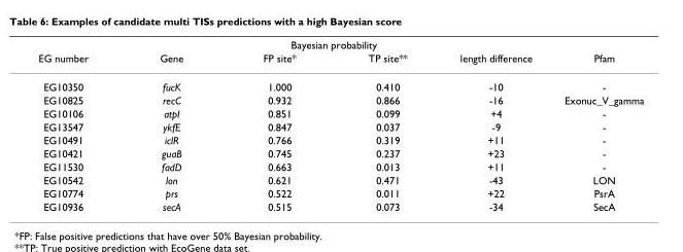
<table><thead><tr><td rowspan="2">EG number</td><td rowspan="2">Gene</td><td colspan="2">Bayesian probability</td><td rowspan="2">length difference</td><td rowspan="2">Pfam</td></tr><tr><td>FP site*</td><td>TP site**</td></tr></thead><tbody><tr><td>EG10350</td><td>fucK</td><td>1.000</td><td>0.410</td><td>-10</td><td>-</td></tr><tr><td>EG10825</td><td>recC</td><td>0.932</td><td>0.866</td><td>-16</td><td>Exonuc_V_gamma</td></tr><tr><td>EG10106</td><td>atpI</td><td>0.851</td><td>0.099</td><td>+4</td><td>-</td></tr><tr><td>EG13547</td><td>ykfE</td><td>0.847</td><td>0.037</td><td>-9</td><td>-</td></tr><tr><td>EG10491</td><td>iclR</td><td>0.766</td><td>0.319</td><td>+11</td><td>-</td></tr><tr><td>EG10421</td><td>guaB</td><td>0.745</td><td>0.237</td><td>+23</td><td>-</td></tr><tr><td>EG11530</td><td>fadD</td><td>0.663</td><td>0.013</td><td>+11</td><td>-</td></tr><tr><td>EG10542</td><td>lon</td><td>0.621</td><td>0.471</td><td>-43</td><td>LON</td></tr><tr><td>EG10774</td><td>prs</td><td>0.522</td><td>0.011</td><td>+22</td><td>PsrA</td></tr><tr><td>EG10936</td><td>secA</td><td>0.515</td><td>0.073</td><td>-34</td><td>SecA</td></tr></tbody></table>